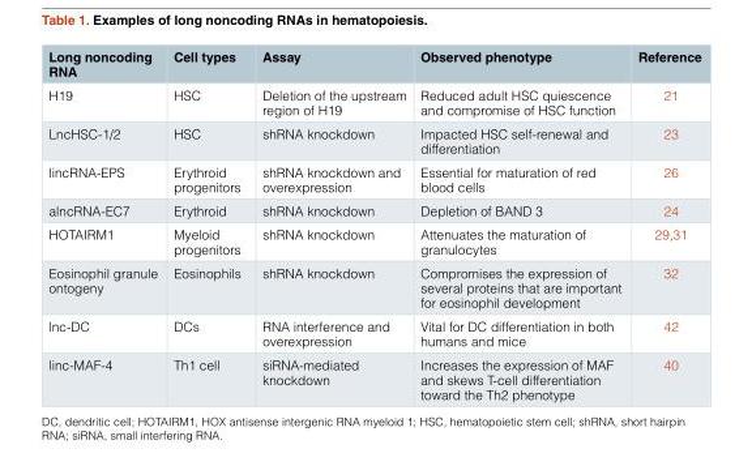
<table><thead><tr><td>Long noncoding RNA</td><td>Cell types</td><td>Assay</td><td>Observed phenotype</td><td>Reference</td></tr></thead><tbody><tr><td>H19</td><td>HSC</td><td>Deletion of the upstream region of H19</td><td>Reduced adult HSC quiescence and compromise of HSC function</td><td>21</td></tr><tr><td>LncHSC-1/2</td><td>HSC</td><td>shRNA knockdown</td><td>Impacted HSC self-renewal and differentiation</td><td>23</td></tr><tr><td>lincRNA-EPS</td><td>Erythroid progenitors</td><td>shRNA knockdown and overexpression</td><td>Essential for maturation of red blood cells</td><td>26</td></tr><tr><td>alncRNA-EC7</td><td>Erythroid</td><td>shRNA knockdown</td><td>Depletion of BAND 3</td><td>24</td></tr><tr><td>HOTAIRM1</td><td>Myeloid progenitors</td><td>shRNA knockdown</td><td>Attenuates the maturation of granulocytes</td><td>29,31</td></tr><tr><td>Eosinophil granule ontogeny</td><td>Eosinophils</td><td>shRNA knockdown</td><td>Compromises the expression of several proteins that are important for eosinophil development</td><td>32</td></tr><tr><td>lnc-DC</td><td>DCs</td><td>RNA interference and overexpression</td><td>Vital for DC differentiation in both humans and mice</td><td>42</td></tr><tr><td>linc-MAF-4</td><td>Th1 cell</td><td>siRNA-mediated knockdown</td><td>Increases the expression of MAF and skews T-cell differentiation toward the Th2 phenotype</td><td>40</td></tr></tbody></table>